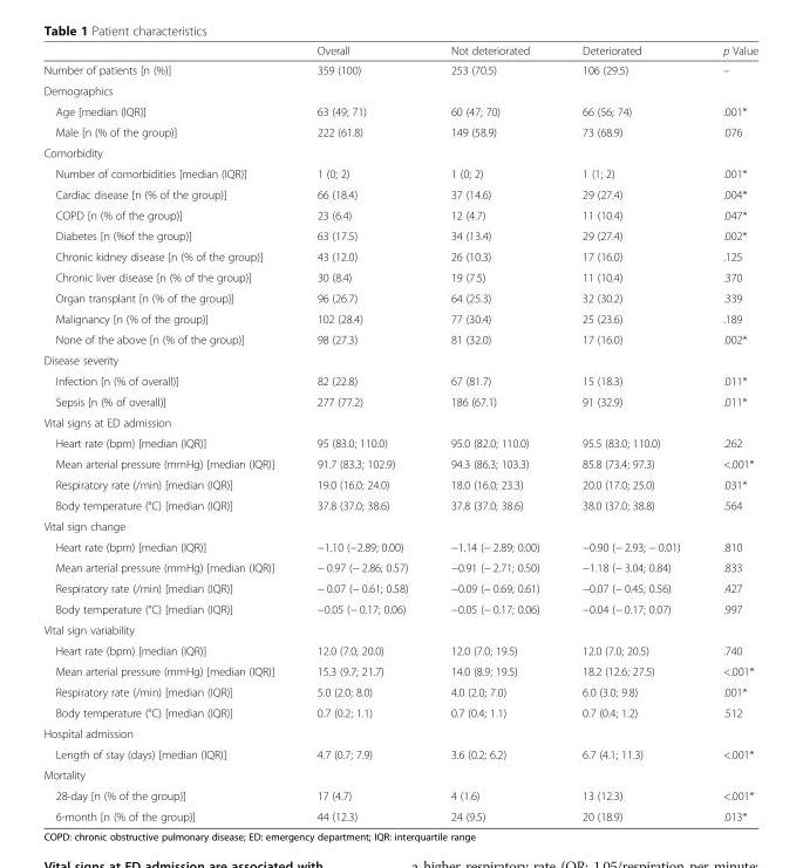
<table><thead><tr><td></td><td>Overall</td><td>Not deteriorated</td><td>Deteriorated</td><td>p Value</td></tr></thead><tbody><tr><td>Number of patients [n (%)]</td><td>359 (100)</td><td>253 (70.5)</td><td>106 (29.5)</td><td>–</td></tr><tr><td colspan="5">Demographics</td></tr><tr><td>Age [median (IQR)]</td><td>63 (49; 71)</td><td>60 (47; 70)</td><td>66 (56; 74)</td><td>.001*</td></tr><tr><td>Male [n (% of the group)]</td><td>222 (61.8)</td><td>149 (58.9)</td><td>73 (68.9)</td><td>.076</td></tr><tr><td colspan="5">Comorbidity</td></tr><tr><td>Number of comorbidities [median (IQR)]</td><td>1 (0; 2)</td><td>1 (0; 2)</td><td>1 (1; 2)</td><td>.001*</td></tr><tr><td>Cardiac disease [n (% of the group)]</td><td>66 (18.4)</td><td>37 (14.6)</td><td>29 (27.4)</td><td>.004*</td></tr><tr><td>COPD [n (% of the group)]</td><td>23 (6.4)</td><td>12 (4.7)</td><td>11 (10.4)</td><td>.047*</td></tr><tr><td>Diabetes [n (%of the group)]</td><td>63 (17.5)</td><td>34 (13.4)</td><td>29 (27.4)</td><td>.002*</td></tr><tr><td>Chronic kidney disease [n (% of the group)]</td><td>43 (12.0)</td><td>26 (10.3)</td><td>17 (16.0)</td><td>.125</td></tr><tr><td>Chronic liver disease [n (% of the group)]</td><td>30 (8.4)</td><td>19 (7.5)</td><td>11 (10.4)</td><td>.370</td></tr><tr><td>Organ transplant [n (% of the group)]</td><td>96 (26.7)</td><td>64 (25.3)</td><td>32 (30.2)</td><td>.339</td></tr><tr><td>Malignancy [n (% of the group)]</td><td>102 (28.4)</td><td>77 (30.4)</td><td>25 (23.6)</td><td>.189</td></tr><tr><td>None of the above [n (% of the group)]</td><td>98 (27.3)</td><td>81 (32.0)</td><td>17 (16.0)</td><td>.002*</td></tr><tr><td colspan="5">Disease severity</td></tr><tr><td>Infection [n (% of overall)]</td><td>82 (22.8)</td><td>67 (81.7)</td><td>15 (18.3)</td><td>.011*</td></tr><tr><td>Sepsis [n (% of overall)]</td><td>277 (77.2)</td><td>186 (67.1)</td><td>91 (32.9)</td><td>.011*</td></tr><tr><td colspan="5">Vital signs at ED admission</td></tr><tr><td>Heart rate (bpm) [median (IQR)]</td><td>95 (83.0; 110.0)</td><td>95.0 (82.0; 110.0)</td><td>95.5 (83.0; 110.0)</td><td>.262</td></tr><tr><td>Mean arterial pressure (mmHg) [median (IQR)]</td><td>91.7 (83.3; 102.9)</td><td>94.3 (86.3; 103.3)</td><td>85.8 (73.4; 97.3)</td><td>&lt;.001*</td></tr><tr><td>Respiratory rate (/min) [median (IQR)]</td><td>19.0 (16.0; 24.0)</td><td>18.0 (16.0; 23.3)</td><td>20.0 (17.0; 25.0)</td><td>.031*</td></tr><tr><td>Body temperature (°C) [median (IQR)]</td><td>37.8 (37.0; 38.6)</td><td>37.8 (37.0; 38.6)</td><td>38.0 (37.0; 38.8)</td><td>.564</td></tr><tr><td colspan="5">Vital sign change</td></tr><tr><td>Heart rate (bpm) [median (IQR)]</td><td>−1.10 (−2.89; 0.00)</td><td>−1.14 (− 2.89; 0.00)</td><td>−0.90 (− 2.93; − 0.01)</td><td>.810</td></tr><tr><td>Mean arterial pressure (mmHg) [median (IQR)]</td><td>− 0.97 (− 2.86; 0.57)</td><td>−0.91 (− 2.71; 0.50)</td><td>−1.18 (− 3.04; 0.84)</td><td>.833</td></tr><tr><td>Respiratory rate (/min) [median (IQR)]</td><td>− 0.07 (− 0.61; 0.58)</td><td>−0.09 (− 0.69; 0.61)</td><td>−0.07 (− 0.45; 0.56)</td><td>.427</td></tr><tr><td>Body temperature (°C) [median (IQR)]</td><td>−0.05 (− 0.17; 0.06)</td><td>−0.05 (− 0.17; 0.06)</td><td>−0.04 (− 0.17; 0.07)</td><td>.997</td></tr><tr><td colspan="5">Vital sign variability</td></tr><tr><td>Heart rate (bpm) [median (IQR)]</td><td>12.0 (7.0; 20.0)</td><td>12.0 (7.0; 19.5)</td><td>12.0 (7.0; 20.5)</td><td>.740</td></tr><tr><td>Mean arterial pressure (mmHg) [median (IQR)]</td><td>15.3 (9.7; 21.7)</td><td>14.0 (8.9; 19.5)</td><td>18.2 (12.6; 27.5)</td><td>&lt;.001*</td></tr><tr><td>Respiratory rate (/min) [median (IQR)]</td><td>5.0 (2.0; 8.0)</td><td>4.0 (2.0; 7.0)</td><td>6.0 (3.0; 9.8)</td><td>.001*</td></tr><tr><td>Body temperature (°C) [median (IQR)]</td><td>0.7 (0.2; 1.1)</td><td>0.7 (0.4; 1.1)</td><td>0.7 (0.4; 1.2)</td><td>.512</td></tr><tr><td colspan="5">Hospital admission</td></tr><tr><td>Length of stay (days) [median (IQR)]</td><td>4.7 (0.7; 7.9)</td><td>3.6 (0.2; 6.2)</td><td>6.7 (4.1; 11.3)</td><td>&lt;.001*</td></tr><tr><td colspan="5">Mortality</td></tr><tr><td>28-day [n (% of the group)]</td><td>17 (4.7)</td><td>4 (1.6)</td><td>13 (12.3)</td><td>&lt;.001*</td></tr><tr><td>6-month [n (% of the group)]</td><td>44 (12.3)</td><td>24 (9.5)</td><td>20 (18.9)</td><td>.013*</td></tr></tbody></table>